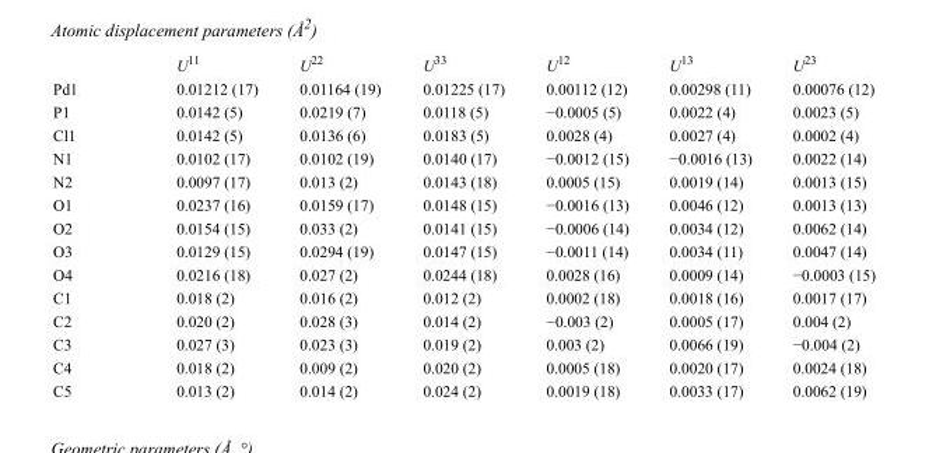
<table><thead><tr><td></td><td>U<sup>11</sup></td><td>U<sup>22</sup></td><td>U<sup>33</sup></td><td>U<sup>12</sup></td><td>U<sup>13</sup></td><td>U<sup>23</sup></td></tr></thead><tbody><tr><td>Pd1</td><td>0.01212 (17)</td><td>0.01164 (19)</td><td>0.01225 (17)</td><td>0.00112 (12)</td><td>0.00298 (11)</td><td>0.00076 (12)</td></tr><tr><td>P1</td><td>0.0142 (5)</td><td>0.0219 (7)</td><td>0.0118 (5)</td><td>−0.0005 (5)</td><td>0.0022 (4)</td><td>0.0023 (5)</td></tr><tr><td>Cl1</td><td>0.0142 (5)</td><td>0.0136 (6)</td><td>0.0183 (5)</td><td>0.0028 (4)</td><td>0.0027 (4)</td><td>0.0002 (4)</td></tr><tr><td>N1</td><td>0.0102 (17)</td><td>0.0102 (19)</td><td>0.0140 (17)</td><td>−0.0012 (15)</td><td>−0.0016 (13)</td><td>0.0022 (14)</td></tr><tr><td>N2</td><td>0.0097 (17)</td><td>0.013 (2)</td><td>0.0143 (18)</td><td>0.0005 (15)</td><td>0.0019 (14)</td><td>0.0013 (15)</td></tr><tr><td>O1</td><td>0.0237 (16)</td><td>0.0159 (17)</td><td>0.0148 (15)</td><td>−0.0016 (13)</td><td>0.0046 (12)</td><td>0.0013 (13)</td></tr><tr><td>O2</td><td>0.0154 (15)</td><td>0.033 (2)</td><td>0.0141 (15)</td><td>−0.0006 (14)</td><td>0.0034 (12)</td><td>0.0062 (14)</td></tr><tr><td>O3</td><td>0.0129 (15)</td><td>0.0294 (19)</td><td>0.0147 (15)</td><td>−0.0011 (14)</td><td>0.0034 (11)</td><td>0.0047 (14)</td></tr><tr><td>O4</td><td>0.0216 (18)</td><td>0.027 (2)</td><td>0.0244 (18)</td><td>0.0028 (16)</td><td>0.0009 (14)</td><td>−0.0003 (15)</td></tr><tr><td>C1</td><td>0.018 (2)</td><td>0.016 (2)</td><td>0.012 (2)</td><td>0.0002 (18)</td><td>0.0018 (16)</td><td>0.0017 (17)</td></tr><tr><td>C2</td><td>0.020 (2)</td><td>0.028 (3)</td><td>0.014 (2)</td><td>−0.003 (2)</td><td>0.0005 (17)</td><td>0.004 (2)</td></tr><tr><td>C3</td><td>0.027 (3)</td><td>0.023 (3)</td><td>0.019 (2)</td><td>0.003 (2)</td><td>0.0066 (19)</td><td>−0.004 (2)</td></tr><tr><td>C4</td><td>0.018 (2)</td><td>0.009 (2)</td><td>0.020 (2)</td><td>0.0005 (18)</td><td>0.0020 (17)</td><td>0.0024 (18)</td></tr><tr><td>C5</td><td>0.013 (2)</td><td>0.014 (2)</td><td>0.024 (2)</td><td>0.0019 (18)</td><td>0.0033 (17)</td><td>0.0062 (19)</td></tr></tbody></table>